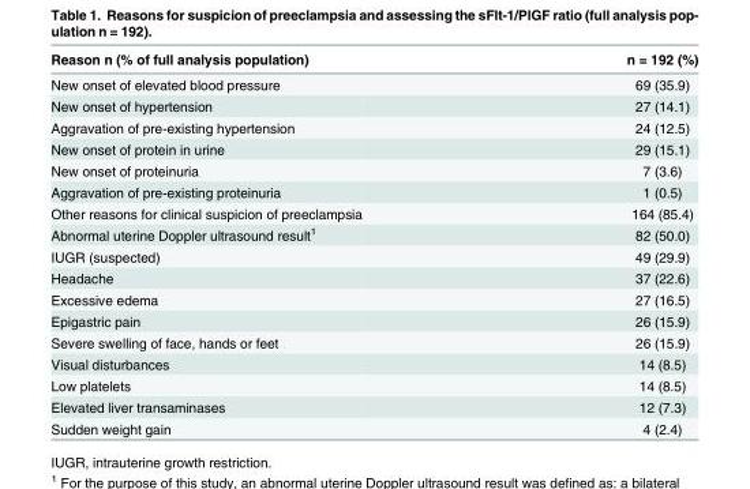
<table><thead><tr><td>Reason n (% of full analysis population)</td><td>n = 192 (%)</td></tr></thead><tbody><tr><td>New onset of elevated blood pressure</td><td>69 (35.9)</td></tr><tr><td>New onset of hypertension</td><td>27 (14.1)</td></tr><tr><td>Aggravation of pre-existing hypertension</td><td>24 (12.5)</td></tr><tr><td>New onset of protein in urine</td><td>29 (15.1)</td></tr><tr><td>New onset of proteinuria</td><td>7 (3.6)</td></tr><tr><td>Aggravation of pre-existing proteinuria</td><td>1 (0.5)</td></tr><tr><td>Other reasons for clinical suspicion of preeclampsia</td><td>164 (85.4)</td></tr><tr><td>Abnormal uterine Doppler ultrasound result<sup>1</sup></td><td>82 (50.0)</td></tr><tr><td>IUGR (suspected)</td><td>49 (29.9)</td></tr><tr><td>Headache</td><td>37 (22.6)</td></tr><tr><td>Excessive edema</td><td>27 (16.5)</td></tr><tr><td>Epigastric pain</td><td>26 (15.9)</td></tr><tr><td>Severe swelling of face, hands or feet</td><td>26 (15.9)</td></tr><tr><td>Visual disturbances</td><td>14 (8.5)</td></tr><tr><td>Low platelets</td><td>14 (8.5)</td></tr><tr><td>Elevated liver transaminases</td><td>12 (7.3)</td></tr><tr><td>Sudden weight gain</td><td>4 (2.4)</td></tr></tbody></table>